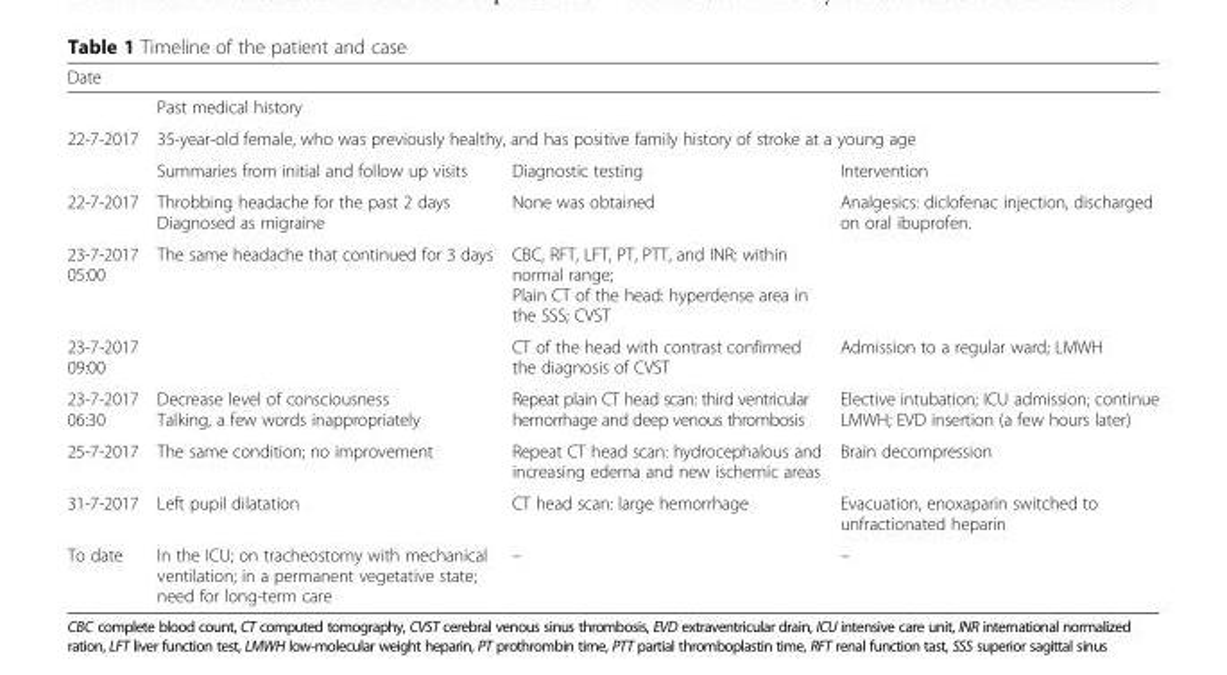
<table><thead><tr><td>Date</td><td></td><td></td><td></td></tr></thead><tbody><tr><td></td><td colspan="3">Past medical history</td></tr><tr><td rowspan="2">22-7-2017</td><td colspan="3">35-year-old female, who was previously healthy, and has positive family history of stroke at a young age</td></tr><tr><td>Summaries from initial and follow up visits</td><td>Diagnostic testing</td><td>Intervention</td></tr><tr><td>22-7-2017</td><td>Throbbing headache for the past 2 days Diagnosed as migraine</td><td>None was obtained</td><td>Analgesics: diclofenac injection, discharged on oral ibuprofen.</td></tr><tr><td>23-7-2017 05:00</td><td>The same headache that continued for 3 days</td><td>CBC, RFT, LFT, PT, PTT, and INR: within normal range; Plain CT of the head: hyperdense area in the SSS; CVST</td><td></td></tr><tr><td>23-7-2017 09:00</td><td></td><td>CT of the head with contrast confirmed the diagnosis of CVST</td><td>Admission to a regular ward; LMWH</td></tr><tr><td>23-7-2017 06:30</td><td>Decrease level of consciousness Talking, a few words inappropriately</td><td>Repeat plain CT head scan: third ventricular hemorrhage and deep venous thrombosis</td><td>Elective intubation; ICU admission; continue LMWH; EVD insertion (a few hours later)</td></tr><tr><td>25-7-2017</td><td>The same condition; no improvement</td><td>Repeat CT head scan: hydrocephalous and increasing edema and new ischemic areas</td><td>Brain decompression</td></tr><tr><td>31-7-2017</td><td>Left pupil dilatation</td><td>CT head scan: large hemorrhage</td><td>Evacuation, enoxaparin switched to unfractionated heparin</td></tr><tr><td>To date</td><td>In the ICU; on tracheostomy with mechanical ventilation; in a permanent vegetative state; need for long-term care</td><td>–</td><td>–</td></tr></tbody></table>